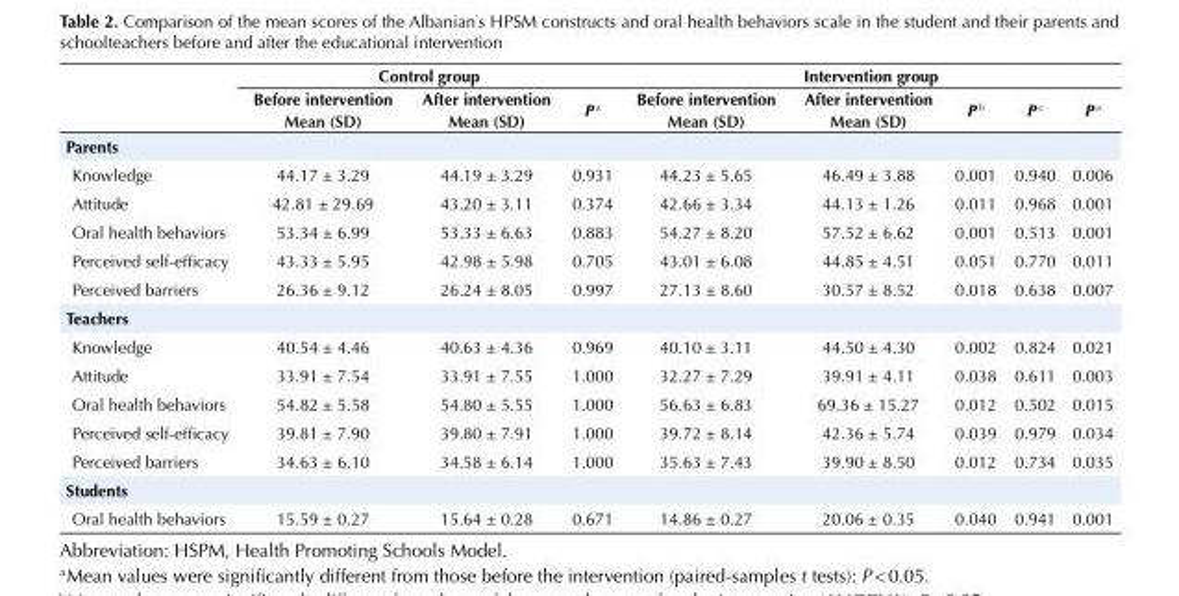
<table><thead><tr><td rowspan="2"></td><td colspan="3">Control group</td><td colspan="5">Intervention group</td></tr><tr><td>Before intervention Mean (SD)</td><td>After intervention Mean (SD)</td><td>P a</td><td>Before intervention Mean (SD)</td><td>After intervention Mean (SD)</td><td>P b</td><td>P c</td><td>P a</td></tr></thead><tbody><tr><td colspan="9">Parents</td></tr><tr><td>Knowledge</td><td>44.17 ± 3.29</td><td>44.19 ± 3.29</td><td>0.931</td><td>44.23 ± 5.65</td><td>46.49 ± 3.88</td><td>0.001</td><td>0.940</td><td>0.006</td></tr><tr><td>Attitude</td><td>42.81 ± 29.69</td><td>43.20 ± 3.11</td><td>0.374</td><td>42.66 ± 3.34</td><td>44.13 ± 1.26</td><td>0.011</td><td>0.968</td><td>0.001</td></tr><tr><td>Oral health behaviors</td><td>53.34 ± 6.99</td><td>53.33 ± 6.63</td><td>0.883</td><td>54.27 ± 8.20</td><td>57.52 ± 6.62</td><td>0.001</td><td>0.513</td><td>0.001</td></tr><tr><td>Perceived self-efficacy</td><td>43.33 ± 5.95</td><td>42.98 ± 5.98</td><td>0.705</td><td>43.01 ± 6.08</td><td>44.85 ± 4.51</td><td>0.051</td><td>0.770</td><td>0.011</td></tr><tr><td>Perceived barriers</td><td>26.36 ± 9.12</td><td>26.24 ± 8.05</td><td>0.997</td><td>27.13 ± 8.60</td><td>30.57 ± 8.52</td><td>0.018</td><td>0.638</td><td>0.007</td></tr><tr><td colspan="9">Teachers</td></tr><tr><td>Knowledge</td><td>40.54 ± 4.46</td><td>40.63 ± 4.36</td><td>0.969</td><td>40.10 ± 3.11</td><td>44.50 ± 4.30</td><td>0.002</td><td>0.824</td><td>0.021</td></tr><tr><td>Attitude</td><td>33.91 ± 7.54</td><td>33.91 ± 7.55</td><td>1.000</td><td>32.27 ± 7.29</td><td>39.91 ± 4.11</td><td>0.038</td><td>0.611</td><td>0.003</td></tr><tr><td>Oral health behaviors</td><td>54.82 ± 5.58</td><td>54.80 ± 5.55</td><td>1.000</td><td>56.63 ± 6.83</td><td>69.36 ± 15.27</td><td>0.012</td><td>0.502</td><td>0.015</td></tr><tr><td>Perceived self-efficacy</td><td>39.81 ± 7.90</td><td>39.80 ± 7.91</td><td>1.000</td><td>39.72 ± 8.14</td><td>42.36 ± 5.74</td><td>0.039</td><td>0.979</td><td>0.034</td></tr><tr><td>Perceived barriers</td><td>34.63 ± 6.10</td><td>34.58 ± 6.14</td><td>1.000</td><td>35.63 ± 7.43</td><td>39.90 ± 8.50</td><td>0.012</td><td>0.734</td><td>0.035</td></tr><tr><td colspan="9">Students</td></tr><tr><td>Oral health behaviors</td><td>15.59 ± 0.27</td><td>15.64 ± 0.28</td><td>0.671</td><td>14.86 ± 0.27</td><td>20.06 ± 0.35</td><td>0.040</td><td>0.941</td><td>0.001</td></tr></tbody></table>